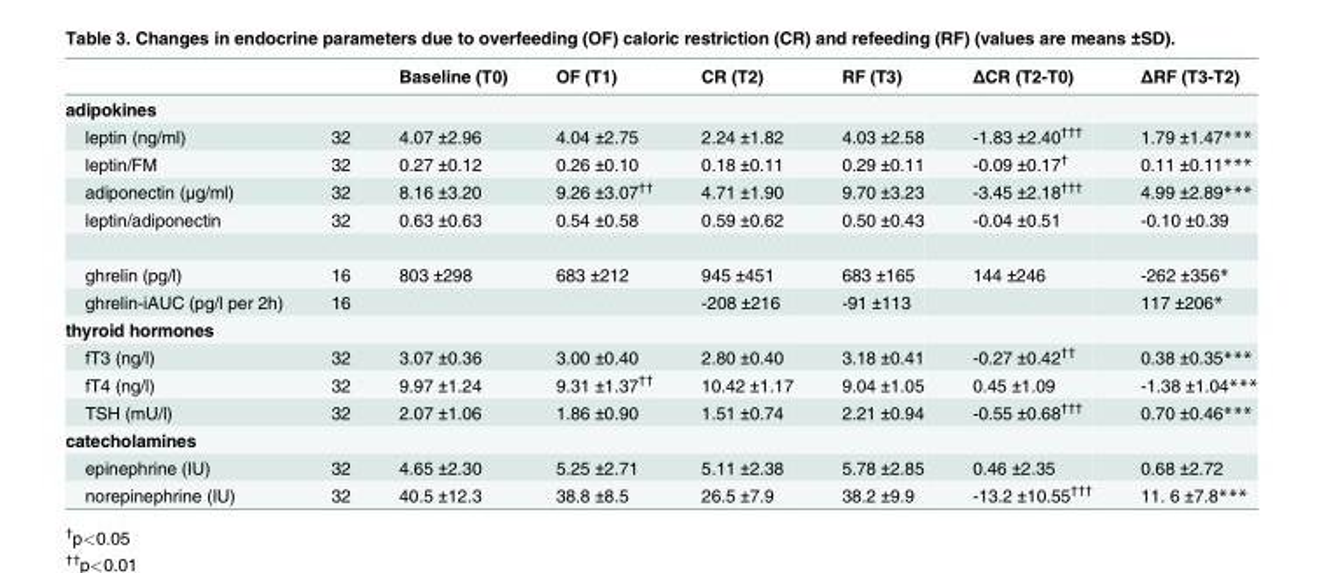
<table><thead><tr><td></td><td></td><td>Baseline (T0)</td><td>OF (T1)</td><td>CR (T2)</td><td>RF (T3)</td><td>ΔCR (T2-T0)</td><td>ΔRF (T3-T2)</td></tr></thead><tbody><tr><td colspan="8">adipokines</td></tr><tr><td>leptin (ng/ml)</td><td>32</td><td>4.07 ±2.96</td><td>4.04 ±2.75</td><td>2.24 ±1.82</td><td>4.03 ±2.58</td><td>-1.83 ±2.40<sup>†††</sup></td><td>1.79 ±1.47***</td></tr><tr><td>leptin/FM</td><td>32</td><td>0.27 ±0.12</td><td>0.26 ±0.10</td><td>0.18 ±0.11</td><td>0.29 ±0.11</td><td>-0.09 ±0.17<sup>†</sup></td><td>0.11 ±0.11***</td></tr><tr><td>adiponectin (μg/ml)</td><td>32</td><td>8.16 ±3.20</td><td>9.26 ±3.07<sup>††</sup></td><td>4.71 ±1.90</td><td>9.70 ±3.23</td><td>-3.45 ±2.18<sup>†††</sup></td><td>4.99 ±2.89***</td></tr><tr><td>leptin/adiponectin</td><td>32</td><td>0.63 ±0.63</td><td>0.54 ±0.58</td><td>0.59 ±0.62</td><td>0.50 ±0.43</td><td>-0.04 ±0.51</td><td>-0.10 ±0.39</td></tr><tr><td>ghrelin (pg/l)</td><td>16</td><td>803 ±298</td><td>683 ±212</td><td>945 ±451</td><td>683 ±165</td><td>144 ±246</td><td>-262 ±356*</td></tr><tr><td>ghrelin-iAUC (pg/l per 2h)</td><td>16</td><td></td><td></td><td>-208 ±216</td><td>-91 ±113</td><td></td><td>117 ±206*</td></tr><tr><td colspan="8">thyroid hormones</td></tr><tr><td>fT3 (ng/l)</td><td>32</td><td>3.07 ±0.36</td><td>3.00 ±0.40</td><td>2.80 ±0.40</td><td>3.18 ±0.41</td><td>-0.27 ±0.42<sup>††</sup></td><td>0.38 ±0.35***</td></tr><tr><td>fT4 (ng/l)</td><td>32</td><td>9.97 ±1.24</td><td>9.31 ±1.37<sup>††</sup></td><td>10.42 ±1.17</td><td>9.04 ±1.05</td><td>0.45 ±1.09</td><td>-1.38 ±1.04***</td></tr><tr><td>TSH (mU/l)</td><td>32</td><td>2.07 ±1.06</td><td>1.86 ±0.90</td><td>1.51 ±0.74</td><td>2.21 ±0.94</td><td>-0.55 ±0.68<sup>†††</sup></td><td>0.70 ±0.46***</td></tr><tr><td colspan="8">catecholamines</td></tr><tr><td>epinephrine (IU)</td><td>32</td><td>4.65 ±2.30</td><td>5.25 ±2.71</td><td>5.11 ±2.38</td><td>5.78 ±2.85</td><td>0.46 ±2.35</td><td>0.68 ±2.72</td></tr><tr><td>norepinephrine (IU)</td><td>32</td><td>40.5 ±12.3</td><td>38.8 ±8.5</td><td>26.5 ±7.9</td><td>38.2 ±9.9</td><td>-13.2 ±10.55<sup>†††</sup></td><td>11. 6 ±7.8***</td></tr></tbody></table>